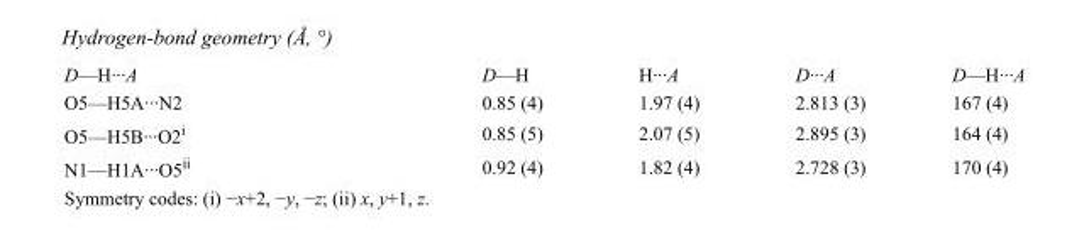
<table><tbody><tr><td>D—H···A</td><td>D—H</td><td>H···A</td><td>D···A</td><td>D—H···A</td></tr><tr><td>O5—H5A···N2</td><td>0.85 (4)</td><td>1.97 (4)</td><td>2.813 (3)</td><td>167 (4)</td></tr><tr><td>O5—H5B···O2<sup>i</sup></td><td>0.85 (5)</td><td>2.07 (5)</td><td>2.895 (3)</td><td>164 (4)</td></tr><tr><td>N1—H1A···O5<sup>ii</sup></td><td>0.92 (4)</td><td>1.82 (4)</td><td>2.728 (3)</td><td>170 (4)</td></tr></tbody></table>